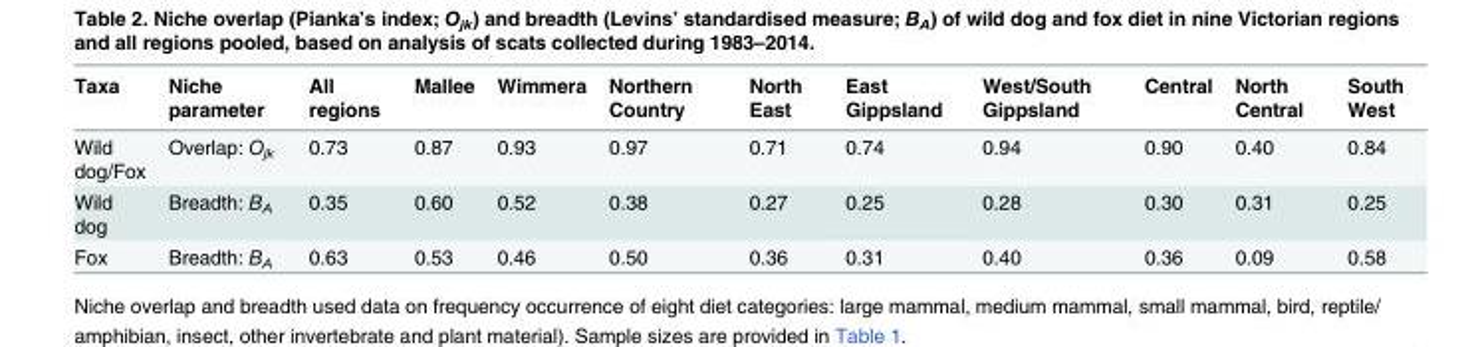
<table><thead><tr><td>Taxa</td><td>Niche parameter</td><td>All regions</td><td>Mallee</td><td>Wimmera</td><td>Northern Country</td><td>North East</td><td>East Gippsland</td><td>West/South Gippsland</td><td>Central</td><td>North Central</td><td>South West</td></tr></thead><tbody><tr><td>Wild dog/Fox</td><td>Overlap: O<sub>jk</sub></td><td>0.73</td><td>0.87</td><td>0.93</td><td>0.97</td><td>0.71</td><td>0.74</td><td>0.94</td><td>0.90</td><td>0.40</td><td>0.84</td></tr><tr><td>Wild dog</td><td>Breadth: B<sub>A</sub></td><td>0.35</td><td>0.60</td><td>0.52</td><td>0.38</td><td>0.27</td><td>0.25</td><td>0.28</td><td>0.30</td><td>0.31</td><td>0.25</td></tr><tr><td>Fox</td><td>Breadth: B<sub>A</sub></td><td>0.63</td><td>0.53</td><td>0.46</td><td>0.50</td><td>0.36</td><td>0.31</td><td>0.40</td><td>0.36</td><td>0.09</td><td>0.58</td></tr></tbody></table>